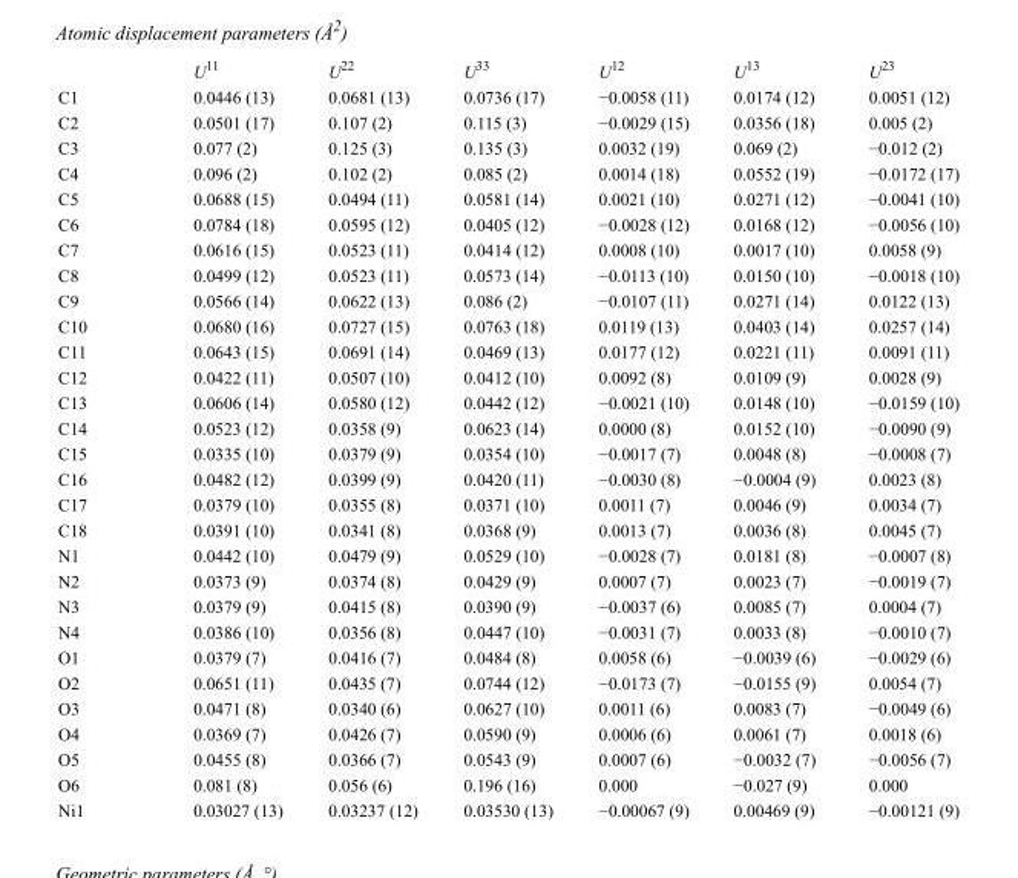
<table><thead><tr><td></td><td>U<sup>11</sup></td><td>U<sup>22</sup></td><td>U<sup>33</sup></td><td>U<sup>12</sup></td><td>U<sup>13</sup></td><td>U<sup>23</sup></td></tr></thead><tbody><tr><td>C1</td><td>0.0446 (13)</td><td>0.0681 (13)</td><td>0.0736 (17)</td><td>−0.0058 (11)</td><td>0.0174 (12)</td><td>0.0051 (12)</td></tr><tr><td>C2</td><td>0.0501 (17)</td><td>0.107 (2)</td><td>0.115 (3)</td><td>−0.0029 (15)</td><td>0.0356 (18)</td><td>0.005 (2)</td></tr><tr><td>C3</td><td>0.077 (2)</td><td>0.125 (3)</td><td>0.135 (3)</td><td>0.0032 (19)</td><td>0.069 (2)</td><td>−0.012 (2)</td></tr><tr><td>C4</td><td>0.096 (2)</td><td>0.102 (2)</td><td>0.085 (2)</td><td>0.0014 (18)</td><td>0.0552 (19)</td><td>−0.0172 (17)</td></tr><tr><td>C5</td><td>0.0688 (15)</td><td>0.0494 (11)</td><td>0.0581 (14)</td><td>0.0021 (10)</td><td>0.0271 (12)</td><td>−0.0041 (10)</td></tr><tr><td>C6</td><td>0.0784 (18)</td><td>0.0595 (12)</td><td>0.0405 (12)</td><td>−0.0028 (12)</td><td>0.0168 (12)</td><td>−0.0056 (10)</td></tr><tr><td>C7</td><td>0.0616 (15)</td><td>0.0523 (11)</td><td>0.0414 (12)</td><td>0.0008 (10)</td><td>0.0017 (10)</td><td>0.0058 (9)</td></tr><tr><td>C8</td><td>0.0499 (12)</td><td>0.0523 (11)</td><td>0.0573 (14)</td><td>−0.0113 (10)</td><td>0.0150 (10)</td><td>−0.0018 (10)</td></tr><tr><td>C9</td><td>0.0566 (14)</td><td>0.0622 (13)</td><td>0.086 (2)</td><td>−0.0107 (11)</td><td>0.0271 (14)</td><td>0.0122 (13)</td></tr><tr><td>C10</td><td>0.0680 (16)</td><td>0.0727 (15)</td><td>0.0763 (18)</td><td>0.0119 (13)</td><td>0.0403 (14)</td><td>0.0257 (14)</td></tr><tr><td>C11</td><td>0.0643 (15)</td><td>0.0691 (14)</td><td>0.0469 (13)</td><td>0.0177 (12)</td><td>0.0221 (11)</td><td>0.0091 (11)</td></tr><tr><td>C12</td><td>0.0422 (11)</td><td>0.0507 (10)</td><td>0.0412 (10)</td><td>0.0092 (8)</td><td>0.0109 (9)</td><td>0.0028 (9)</td></tr><tr><td>C13</td><td>0.0606 (14)</td><td>0.0580 (12)</td><td>0.0442 (12)</td><td>−0.0021 (10)</td><td>0.0148 (10)</td><td>−0.0159 (10)</td></tr><tr><td>C14</td><td>0.0523 (12)</td><td>0.0358 (9)</td><td>0.0623 (14)</td><td>0.0000 (8)</td><td>0.0152 (10)</td><td>−0.0090 (9)</td></tr><tr><td>C15</td><td>0.0335 (10)</td><td>0.0379 (9)</td><td>0.0354 (10)</td><td>−0.0017 (7)</td><td>0.0048 (8)</td><td>−0.0008 (7)</td></tr><tr><td>C16</td><td>0.0482 (12)</td><td>0.0399 (9)</td><td>0.0420 (11)</td><td>−0.0030 (8)</td><td>−0.0004 (9)</td><td>0.0023 (8)</td></tr><tr><td>C17</td><td>0.0379 (10)</td><td>0.0355 (8)</td><td>0.0371 (10)</td><td>0.0011 (7)</td><td>0.0046 (9)</td><td>0.0034 (7)</td></tr><tr><td>C18</td><td>0.0391 (10)</td><td>0.0341 (8)</td><td>0.0368 (9)</td><td>0.0013 (7)</td><td>0.0036 (8)</td><td>0.0045 (7)</td></tr><tr><td>N1</td><td>0.0442 (10)</td><td>0.0479 (9)</td><td>0.0529 (10)</td><td>−0.0028 (7)</td><td>0.0181 (8)</td><td>−0.0007 (8)</td></tr><tr><td>N2</td><td>0.0373 (9)</td><td>0.0374 (8)</td><td>0.0429 (9)</td><td>0.0007 (7)</td><td>0.0023 (7)</td><td>−0.0019 (7)</td></tr><tr><td>N3</td><td>0.0379 (9)</td><td>0.0415 (8)</td><td>0.0390 (9)</td><td>−0.0037 (6)</td><td>0.0085 (7)</td><td>0.0004 (7)</td></tr><tr><td>N4</td><td>0.0386 (10)</td><td>0.0356 (8)</td><td>0.0447 (10)</td><td>−0.0031 (7)</td><td>0.0033 (8)</td><td>−0.0010 (7)</td></tr><tr><td>O1</td><td>0.0379 (7)</td><td>0.0416 (7)</td><td>0.0484 (8)</td><td>0.0058 (6)</td><td>−0.0039 (6)</td><td>−0.0029 (6)</td></tr><tr><td>O2</td><td>0.0651 (11)</td><td>0.0435 (7)</td><td>0.0744 (12)</td><td>−0.0173 (7)</td><td>−0.0155 (9)</td><td>0.0054 (7)</td></tr><tr><td>O3</td><td>0.0471 (8)</td><td>0.0340 (6)</td><td>0.0627 (10)</td><td>0.0011 (6)</td><td>0.0083 (7)</td><td>−0.0049 (6)</td></tr><tr><td>O4</td><td>0.0369 (7)</td><td>0.0426 (7)</td><td>0.0590 (9)</td><td>0.0006 (6)</td><td>0.0061 (7)</td><td>0.0018 (6)</td></tr><tr><td>O5</td><td>0.0455 (8)</td><td>0.0366 (7)</td><td>0.0543 (9)</td><td>0.0007 (6)</td><td>−0.0032 (7)</td><td>−0.0056 (7)</td></tr><tr><td>O6</td><td>0.081 (8)</td><td>0.056 (6)</td><td>0.196 (16)</td><td>0.000</td><td>−0.027 (9)</td><td>0.000</td></tr><tr><td>Ni1</td><td>0.03027 (13)</td><td>0.03237 (12)</td><td>0.03530 (13)</td><td>−0.00067 (9)</td><td>0.00469 (9)</td><td>−0.00121 (9)</td></tr></tbody></table>